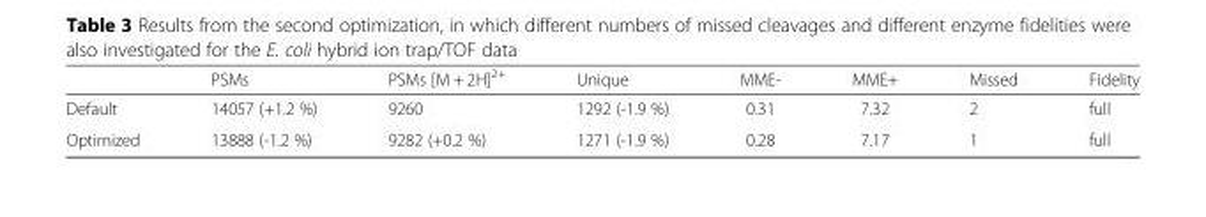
<table><thead><tr><td></td><td>PSMs</td><td>PSMs [M + 2H]<sup>2+</sup></td><td>Unique</td><td>MME-</td><td>MME+</td><td>Missed</td><td>Fidelity</td></tr></thead><tbody><tr><td>Default</td><td>14057 (+1.2 %)</td><td>9260</td><td>1292 (-1.9 %)</td><td>0.31</td><td>7.32</td><td>2</td><td>full</td></tr><tr><td>Optimized</td><td>13888 (-1.2 %)</td><td>9282 (+0.2 %)</td><td>1271 (-1.9 %)</td><td>0.28</td><td>7.17</td><td>1</td><td>full</td></tr></tbody></table>